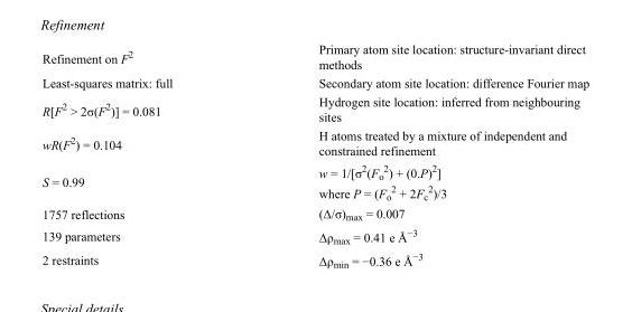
<table><tbody><tr><td>Refinement on F<sup>2</sup></td><td>Primary atom site location: structure-invariant direct methods</td></tr><tr><td>Least-squares matrix: full</td><td>Secondary atom site location: difference Fourier map</td></tr><tr><td>R[F<sup>2</sup> &gt; 2σ(F<sup>2</sup>)] = 0.081</td><td>Hydrogen site location: inferred from neighbouring sites</td></tr><tr><td>wR(F<sup>2</sup>) = 0.104</td><td>H atoms treated by a mixture of independent and constrained refinement</td></tr><tr><td>S = 0.99</td><td>w = 1/[σ<sup>2</sup>(F<sub>o</sub> <sup>2</sup>) + (0.P)<sup>2</sup>] where P = (F<sub>o</sub> <sup>2</sup> + 2F<sub>c</sub> <sup>2</sup>)/3</td></tr><tr><td>1757 reflections</td><td>(Δ/σ)<sub>max</sub> = 0.007</td></tr><tr><td>139 parameters</td><td>Δρ<sub>max</sub> = 0.41 e Å<sup>−3</sup></td></tr><tr><td>2 restraints</td><td>Δρ<sub>min</sub> = −0.36 e Å<sup>−3</sup></td></tr></tbody></table>